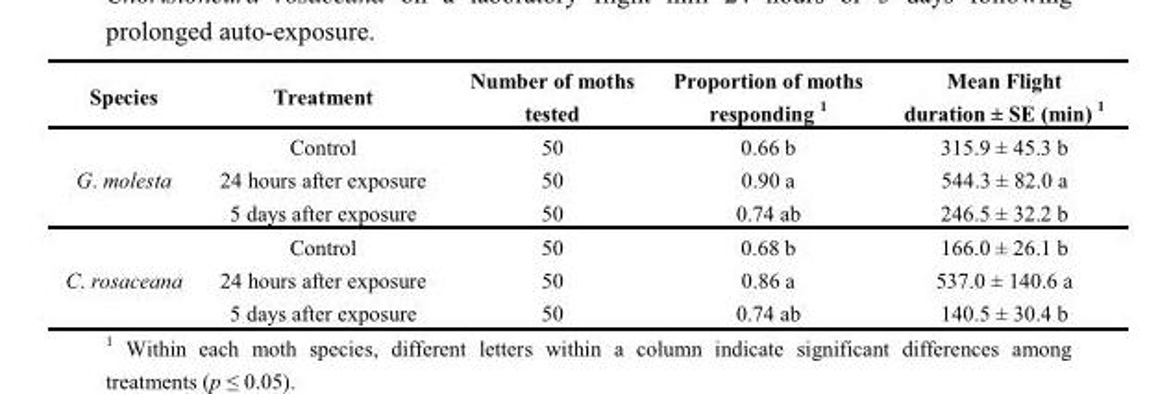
<table><thead><tr><td>Species</td><td>Treatment</td><td>Number of moths tested</td><td>Proportion of moths responding <sup>1</sup></td><td>Mean Flight duration ± SE (min) <sup>1</sup></td></tr></thead><tbody><tr><td rowspan="3">G. molesta</td><td>Control</td><td>50</td><td>0.66 b</td><td>315.9 ± 45.3 b</td></tr><tr><td>24 hours after exposure</td><td>50</td><td>0.90 a</td><td>544.3 ± 82.0 a</td></tr><tr><td>5 days after exposure</td><td>50</td><td>0.74 ab</td><td>246.5 ± 32.2 b</td></tr><tr><td rowspan="3">C. rosaceana</td><td>Control</td><td>50</td><td>0.68 b</td><td>166.0 ± 26.1 b</td></tr><tr><td>24 hours after exposure</td><td>50</td><td>0.86 a</td><td>537.0 ± 140.6 a</td></tr><tr><td>5 days after exposure</td><td>50</td><td>0.74 ab</td><td>140.5 ± 30.4 b</td></tr></tbody></table>